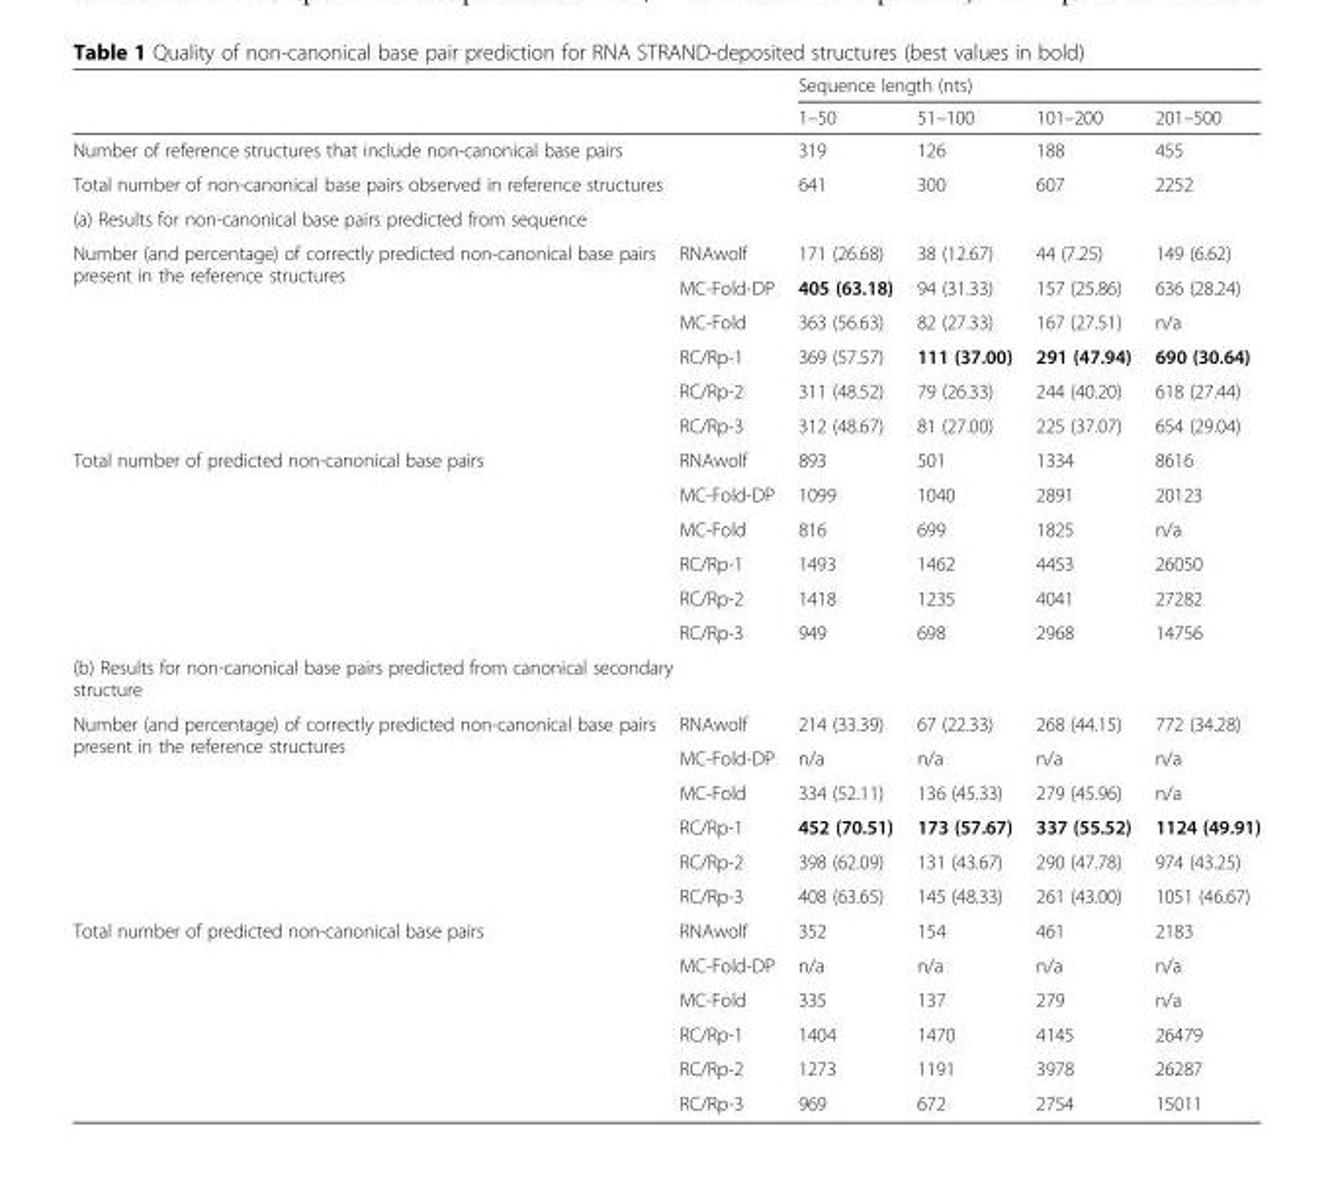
<table><thead><tr><td rowspan="2"></td><td rowspan="2"></td><td colspan="4">Sequence length (nts)</td></tr><tr><td>1–50</td><td>51–100</td><td>101–200</td><td>201–500</td></tr></thead><tbody><tr><td colspan="2">Number of reference structures that include non-canonical base pairs</td><td>319</td><td>126</td><td>188</td><td>455</td></tr><tr><td colspan="2">Total number of non-canonical base pairs observed in reference structures</td><td>641</td><td>300</td><td>607</td><td>2252</td></tr><tr><td colspan="6">(a) Results for non-canonical base pairs predicted from sequence</td></tr><tr><td rowspan="6">Number (and percentage) of correctly predicted non-canonical base pairs present in the reference structures</td><td>RNAwolf</td><td>171 (26.68)</td><td>38 (12.67)</td><td>44 (7.25)</td><td>149 (6.62)</td></tr><tr><td>MC-Fold-DP</td><td>405 (63.18)</td><td>94 (31.33)</td><td>157 (25.86)</td><td>636 (28.24)</td></tr><tr><td>MC-Fold</td><td>363 (56.63)</td><td>82 (27.33)</td><td>167 (27.51)</td><td>n/a</td></tr><tr><td>RC/Rp-1</td><td>369 (57.57)</td><td>111 (37.00)</td><td>291 (47.94)</td><td>690 (30.64)</td></tr><tr><td>RC/Rp-2</td><td>311 (48.52)</td><td>79 (26.33)</td><td>244 (40.20)</td><td>618 (27.44)</td></tr><tr><td>RC/Rp-3</td><td>312 (48.67)</td><td>81 (27.00)</td><td>225 (37.07)</td><td>654 (29.04)</td></tr><tr><td rowspan="6">Total number of predicted non-canonical base pairs</td><td>RNAwolf</td><td>893</td><td>501</td><td>1334</td><td>8616</td></tr><tr><td>MC-Fold-DP</td><td>1099</td><td>1040</td><td>2891</td><td>20123</td></tr><tr><td>MC-Fold</td><td>816</td><td>699</td><td>1825</td><td>n/a</td></tr><tr><td>RC/Rp-1</td><td>1493</td><td>1462</td><td>4453</td><td>26050</td></tr><tr><td>RC/Rp-2</td><td>1418</td><td>1235</td><td>4041</td><td>27282</td></tr><tr><td>RC/Rp-3</td><td>949</td><td>698</td><td>2968</td><td>14756</td></tr><tr><td colspan="6">(b) Results for non-canonical base pairs predicted from canonical secondary structure</td></tr><tr><td rowspan="6">Number (and percentage) of correctly predicted non-canonical base pairs present in the reference structures</td><td>RNAwolf</td><td>214 (33.39)</td><td>67 (22.33)</td><td>268 (44.15)</td><td>772 (34.28)</td></tr><tr><td>MC-Fold-DP</td><td>n/a</td><td>n/a</td><td>n/a</td><td>n/a</td></tr><tr><td>MC-Fold</td><td>334 (52.11)</td><td>136 (45.33)</td><td>279 (45.96)</td><td>n/a</td></tr><tr><td>RC/Rp-1</td><td>452 (70.51)</td><td>173 (57.67)</td><td>337 (55.52)</td><td>1124 (49.91)</td></tr><tr><td>RC/Rp-2</td><td>398 (62.09)</td><td>131 (43.67)</td><td>290 (47.78)</td><td>974 (43.25)</td></tr><tr><td>RC/Rp-3</td><td>408 (63.65)</td><td>145 (48.33)</td><td>261 (43.00)</td><td>1051 (46.67)</td></tr><tr><td rowspan="6">Total number of predicted non-canonical base pairs</td><td>RNAwolf</td><td>352</td><td>154</td><td>461</td><td>2183</td></tr><tr><td>MC-Fold-DP</td><td>n/a</td><td>n/a</td><td>n/a</td><td>n/a</td></tr><tr><td>MC-Fold</td><td>335</td><td>137</td><td>279</td><td>n/a</td></tr><tr><td>RC/Rp-1</td><td>1404</td><td>1470</td><td>4145</td><td>26479</td></tr><tr><td>RC/Rp-2</td><td>1273</td><td>1191</td><td>3978</td><td>26287</td></tr><tr><td>RC/Rp-3</td><td>969</td><td>672</td><td>2754</td><td>15011</td></tr></tbody></table>